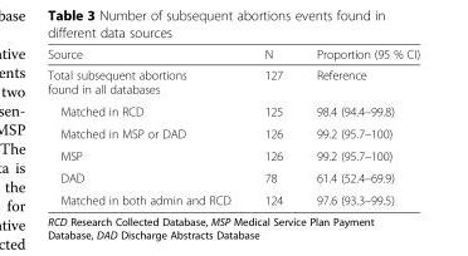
<table><thead><tr><td>Source</td><td>N</td><td>Proportion (95 % CI)</td></tr></thead><tbody><tr><td>Total subsequent abortions found in all databases</td><td>127</td><td>Reference</td></tr><tr><td>Matched in RCD</td><td>125</td><td>98.4 (94.4–99.8)</td></tr><tr><td>Matched in MSP or DAD</td><td>126</td><td>99.2 (95.7–100)</td></tr><tr><td>MSP</td><td>126</td><td>99.2 (95.7–100)</td></tr><tr><td>DAD</td><td>78</td><td>61.4 (52.4–69.9)</td></tr><tr><td>Matched in both admin and RCD</td><td>124</td><td>97.6 (93.3–99.5)</td></tr></tbody></table>